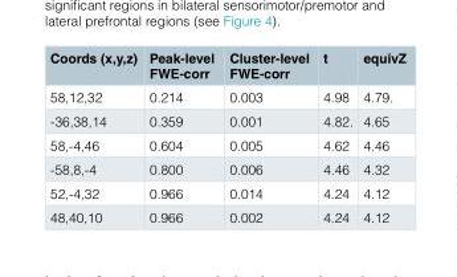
<table><thead><tr><td>Coords (x,y,z)</td><td>Peak-level FWE-corr</td><td>Cluster-level FWE-corr</td><td>t</td><td>equivZ</td></tr></thead><tbody><tr><td>58,12,32</td><td>0.214</td><td>0.003</td><td>4.98</td><td>4.79.</td></tr><tr><td>-36,38,14</td><td>0.359</td><td>0.001</td><td>4.82.</td><td>4.65</td></tr><tr><td>58,-4,46</td><td>0.604</td><td>0.005</td><td>4.62</td><td>4.46</td></tr><tr><td>-58,8,-4</td><td>0.800</td><td>0.006</td><td>4.46</td><td>4.32</td></tr><tr><td>52,-4,32</td><td>0.966</td><td>0.014</td><td>4.24</td><td>4.12</td></tr><tr><td>48,40,10</td><td>0.966</td><td>0.002</td><td>4.24</td><td>4.12</td></tr></tbody></table>